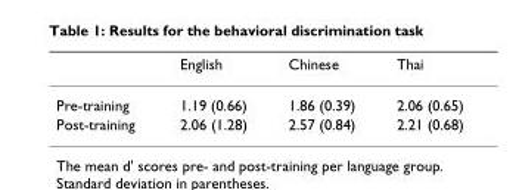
<table><thead><tr><td></td><td>English</td><td>Chinese</td><td>Thai</td></tr></thead><tbody><tr><td>Pre-training</td><td>1.19 (0.66)</td><td>1.86 (0.39)</td><td>2.06 (0.65)</td></tr><tr><td>Post-training</td><td>2.06 (1.28)</td><td>2.57 (0.84)</td><td>2.21 (0.68)</td></tr></tbody></table>